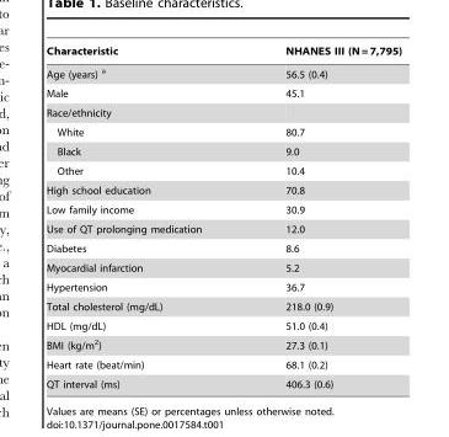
<table><thead><tr><td>Characteristic</td><td>NHANES III (N = 7,795)</td></tr></thead><tbody><tr><td>Age (years) <sup>a</sup></td><td>56.5 (0.4)</td></tr><tr><td>Male</td><td>45.1</td></tr><tr><td colspan="2">Race/ethnicity</td></tr><tr><td>White</td><td>80.7</td></tr><tr><td>Black</td><td>9.0</td></tr><tr><td>Other</td><td>10.4</td></tr><tr><td>High school education</td><td>70.8</td></tr><tr><td>Low family income</td><td>30.9</td></tr><tr><td>Use of QT prolonging medication</td><td>12.0</td></tr><tr><td>Diabetes</td><td>8.6</td></tr><tr><td>Myocardial infarction</td><td>5.2</td></tr><tr><td>Hypertension</td><td>36.7</td></tr><tr><td>Total cholesterol (mg/dL)</td><td>218.0 (0.9)</td></tr><tr><td>HDL (mg/dL)</td><td>51.0 (0.4)</td></tr><tr><td>BMI (kg/m<sup>2</sup>)</td><td>27.3 (0.1)</td></tr><tr><td>Heart rate (beat/min)</td><td>68.1 (0.2)</td></tr><tr><td>QT interval (ms)</td><td>406.3 (0.6)</td></tr></tbody></table>